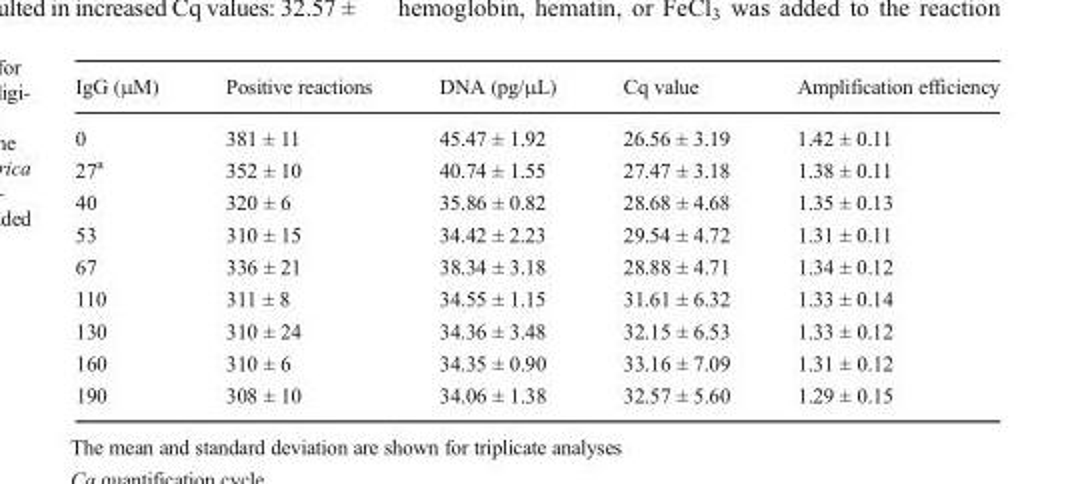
<table><thead><tr><td>IgG (μM)</td><td>Positive reactions</td><td>DNA (pg/μL)</td><td>Cq value</td><td>Amplification efficiency</td></tr></thead><tbody><tr><td>0</td><td>381 ± 11</td><td>45.47 ± 1.92</td><td>26.56 ± 3.19</td><td>1.42 ± 0.11</td></tr><tr><td>27<sup>a</sup></td><td>352 ± 10</td><td>40.74 ± 1.55</td><td>27.47 ± 3.18</td><td>1.38 ± 0.11</td></tr><tr><td>40</td><td>320 ± 6</td><td>35.86 ± 0.82</td><td>28.68 ± 4.68</td><td>1.35 ± 0.13</td></tr><tr><td>53</td><td>310 ± 15</td><td>34.42 ± 2.23</td><td>29.54 ± 4.72</td><td>1.31 ± 0.11</td></tr><tr><td>67</td><td>336 ± 21</td><td>38.34 ± 3.18</td><td>28.88 ± 4.71</td><td>1.34 ± 0.12</td></tr><tr><td>110</td><td>311 ± 8</td><td>34.55 ± 1.15</td><td>31.61 ± 6.32</td><td>1.33 ± 0.14</td></tr><tr><td>130</td><td>310 ± 24</td><td>34.36 ± 3.48</td><td>32.15 ± 6.53</td><td>1.33 ± 0.12</td></tr><tr><td>160</td><td>310 ± 6</td><td>34.35 ± 0.90</td><td>33.16 ± 7.09</td><td>1.31 ± 0.12</td></tr><tr><td>190</td><td>308 ± 10</td><td>34.06 ± 1.38</td><td>32.57 ± 5.60</td><td>1.29 ± 0.15</td></tr></tbody></table>